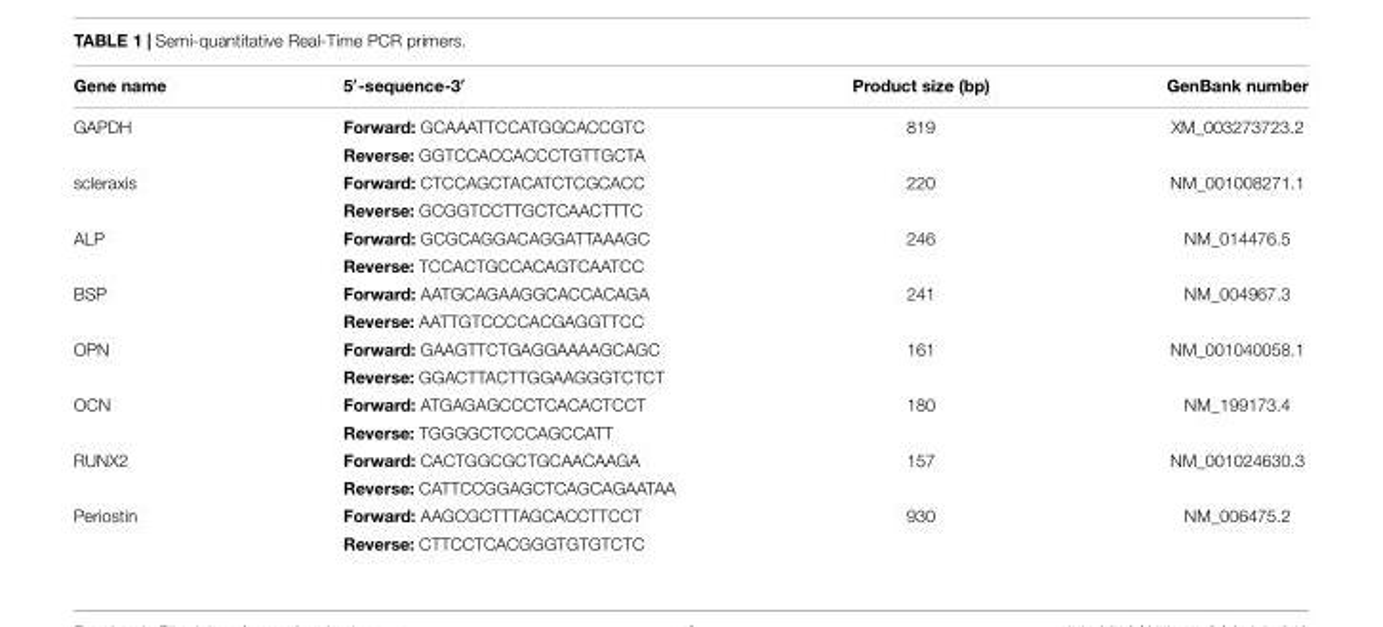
<table><thead><tr><td>Gene name</td><td>5′-sequence-3′</td><td>Product size (bp)</td><td>GenBank number</td></tr></thead><tbody><tr><td rowspan="2">GAPDH</td><td>Forward: GCAAATTCCATGGCACCGTC</td><td>819</td><td>XM_003273723.2</td></tr><tr><td>Reverse: GGTCCACCACCCTGTTGCTA</td><td></td><td></td></tr><tr><td rowspan="2">scleraxis</td><td>Forward: CTCCAGCTACATCTCGCACC</td><td>220</td><td>NM_001008271.1</td></tr><tr><td>Reverse: GCGGTCCTTGCTCAACTTTC</td><td></td><td></td></tr><tr><td rowspan="2">ALP</td><td>Forward: GCGCAGGACAGGATTAAAGC</td><td>246</td><td>NM_014476.5</td></tr><tr><td>Reverse: TCCACTGCCACAGTCAATCC</td><td></td><td></td></tr><tr><td rowspan="2">BSP</td><td>Forward: AATGCAGAAGGCACCACAGA</td><td>241</td><td>NM_004967.3</td></tr><tr><td>Reverse: AATTGTCCCCACGAGGTTCC</td><td></td><td></td></tr><tr><td rowspan="2">OPN</td><td>Forward: GAAGTTCTGAGGAAAAGCAGC</td><td>161</td><td>NM_001040058.1</td></tr><tr><td>Reverse: GGACTTACTTGGAAGGGTCTCT</td><td></td><td></td></tr><tr><td rowspan="2">OCN</td><td>Forward: ATGAGAGCCCTCACACTCCT</td><td>180</td><td>NM_199173.4</td></tr><tr><td>Reverse: TGGGGCTCCCAGCCATT</td><td></td><td></td></tr><tr><td rowspan="2">RUNX2</td><td>Forward: CACTGGCGCTGCAACAAGA</td><td>157</td><td>NM_001024630.3</td></tr><tr><td>Reverse: CATTCCGGAGCTCAGCAGAATAA</td><td></td><td></td></tr><tr><td rowspan="2">Periostin</td><td>Forward: AAGCGCTTTAGCACCTTCCT</td><td>930</td><td>NM_006475.2</td></tr><tr><td>Reverse: CTTCCTCACGGGTGTGTCTC</td><td></td><td></td></tr></tbody></table>